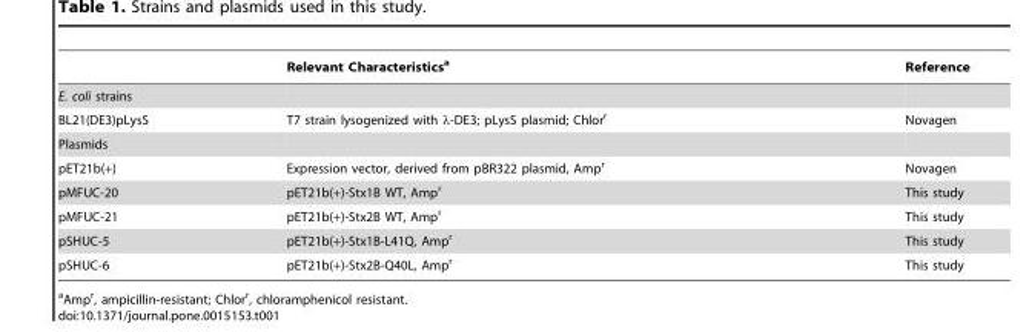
<table><thead><tr><td></td><td>Relevant Characteristics<sup>a</sup></td><td>Reference</td></tr></thead><tbody><tr><td colspan="3">E. coli strains</td></tr><tr><td>BL21(DE3)pLysS</td><td>T7 strain lysogenized with λ-DE3; pLysS plasmid; Chlor<sup>r</sup></td><td>Novagen</td></tr><tr><td colspan="3">Plasmids</td></tr><tr><td>pET21b(+)</td><td>Expression vector, derived from pBR322 plasmid, Amp<sup>r</sup></td><td>Novagen</td></tr><tr><td>pMFUC-20</td><td>pET21b(+)-Stx1B WT, Amp<sup>r</sup></td><td>This study</td></tr><tr><td>pMFUC-21</td><td>pET21b(+)-Stx2B WT, Amp<sup>r</sup></td><td>This study</td></tr><tr><td>pSHUC-5</td><td>pET21b(+)-Stx1B-L41Q, Amp<sup>r</sup></td><td>This study</td></tr><tr><td>pSHUC-6</td><td>pET21b(+)-Stx2B-Q40L, Amp<sup>r</sup></td><td>This study</td></tr></tbody></table>